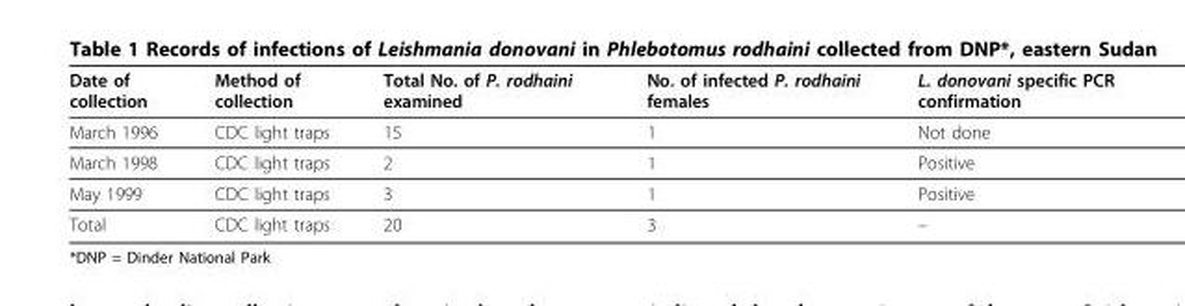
<table><thead><tr><td>Date of collection</td><td>Method of collection</td><td>Total No. of P. rodhaini examined</td><td>No. of infected P. rodhaini females</td><td>L. donovani specific PCR confirmation</td></tr></thead><tbody><tr><td>March 1996</td><td>CDC light traps</td><td>15</td><td>1</td><td>Not done</td></tr><tr><td>March 1998</td><td>CDC light traps</td><td>2</td><td>1</td><td>Positive</td></tr><tr><td>May 1999</td><td>CDC light traps</td><td>3</td><td>1</td><td>Positive</td></tr><tr><td>Total</td><td>CDC light traps</td><td>20</td><td>3</td><td>–</td></tr></tbody></table>